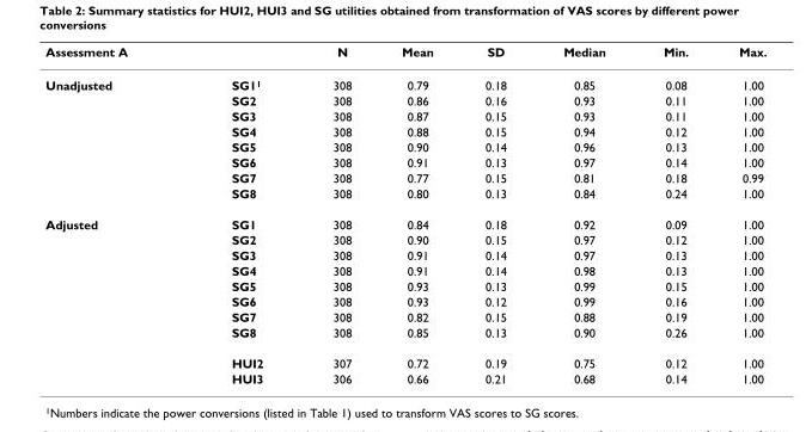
<table><thead><tr><td>Assessment A</td><td></td><td>N</td><td>Mean</td><td>SD</td><td>Median</td><td>Min.</td><td>Max.</td></tr></thead><tbody><tr><td rowspan="8">Unadjusted</td><td>SG1<sup>1</sup></td><td>308</td><td>0.79</td><td>0.18</td><td>0.85</td><td>0.08</td><td>1.00</td></tr><tr><td>SG2</td><td>308</td><td>0.86</td><td>0.16</td><td>0.93</td><td>0.11</td><td>1.00</td></tr><tr><td>SG3</td><td>308</td><td>0.87</td><td>0.15</td><td>0.93</td><td>0.11</td><td>1.00</td></tr><tr><td>SG4</td><td>308</td><td>0.88</td><td>0.15</td><td>0.94</td><td>0.12</td><td>1.00</td></tr><tr><td>SG5</td><td>308</td><td>0.90</td><td>0.14</td><td>0.96</td><td>0.13</td><td>1.00</td></tr><tr><td>SG6</td><td>308</td><td>0.91</td><td>0.13</td><td>0.97</td><td>0.14</td><td>1.00</td></tr><tr><td>SG7</td><td>308</td><td>0.77</td><td>0.15</td><td>0.81</td><td>0.18</td><td>0.99</td></tr><tr><td>SG8</td><td>308</td><td>0.80</td><td>0.13</td><td>0.84</td><td>0.24</td><td>1.00</td></tr><tr><td rowspan="10">Adjusted</td><td>SG1</td><td>308</td><td>0.84</td><td>0.18</td><td>0.92</td><td>0.09</td><td>1.00</td></tr><tr><td>SG2</td><td>308</td><td>0.90</td><td>0.15</td><td>0.97</td><td>0.12</td><td>1.00</td></tr><tr><td>SG3</td><td>308</td><td>0.91</td><td>0.14</td><td>0.97</td><td>0.13</td><td>1.00</td></tr><tr><td>SG4</td><td>308</td><td>0.91</td><td>0.14</td><td>0.98</td><td>0.13</td><td>1.00</td></tr><tr><td>SG5</td><td>308</td><td>0.93</td><td>0.13</td><td>0.99</td><td>0.15</td><td>1.00</td></tr><tr><td>SG6</td><td>308</td><td>0.93</td><td>0.12</td><td>0.99</td><td>0.16</td><td>1.00</td></tr><tr><td>SG7</td><td>308</td><td>0.82</td><td>0.15</td><td>0.88</td><td>0.19</td><td>1.00</td></tr><tr><td>SG8</td><td>308</td><td>0.85</td><td>0.13</td><td>0.90</td><td>0.26</td><td>1.00</td></tr><tr><td>HUI2</td><td>307</td><td>0.72</td><td>0.19</td><td>0.75</td><td>0.12</td><td>1.00</td></tr><tr><td>HUI3</td><td>306</td><td>0.66</td><td>0.21</td><td>0.68</td><td>0.14</td><td>1.00</td></tr></tbody></table>